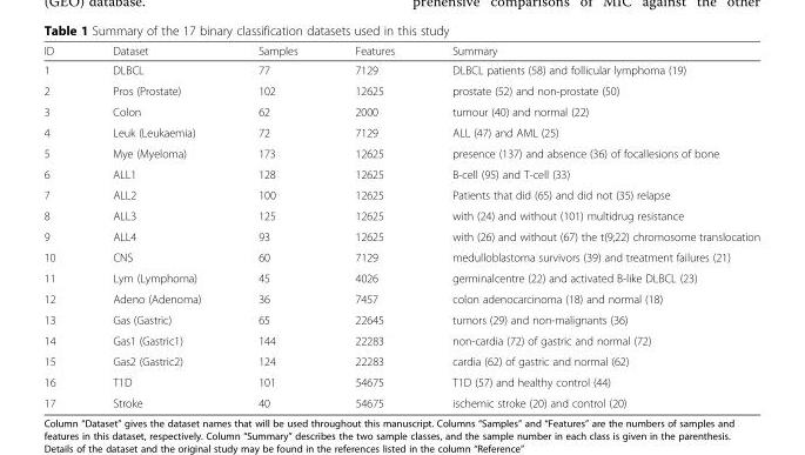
<table><thead><tr><td>ID</td><td>Dataset</td><td>Samples</td><td>Features</td><td>Summary</td></tr></thead><tbody><tr><td>1</td><td>DLBCL</td><td>77</td><td>7129</td><td>DLBCL patients (58) and follicular lymphoma (19)</td></tr><tr><td>2</td><td>Pros (Prostate)</td><td>102</td><td>12625</td><td>prostate (52) and non-prostate (50)</td></tr><tr><td>3</td><td>Colon</td><td>62</td><td>2000</td><td>tumour (40) and normal (22)</td></tr><tr><td>4</td><td>Leuk (Leukaemia)</td><td>72</td><td>7129</td><td>ALL (47) and AML (25)</td></tr><tr><td>5</td><td>Mye (Myeloma)</td><td>173</td><td>12625</td><td>presence (137) and absence (36) of focallesions of bone</td></tr><tr><td>6</td><td>ALL1</td><td>128</td><td>12625</td><td>B-cell (95) and T-cell (33)</td></tr><tr><td>7</td><td>ALL2</td><td>100</td><td>12625</td><td>Patients that did (65) and did not (35) relapse</td></tr><tr><td>8</td><td>ALL3</td><td>125</td><td>12625</td><td>with (24) and without (101) multidrug resistance</td></tr><tr><td>9</td><td>ALL4</td><td>93</td><td>12625</td><td>with (26) and without (67) the t(9;22) chromosome translocation</td></tr><tr><td>10</td><td>CNS</td><td>60</td><td>7129</td><td>medulloblastoma survivors (39) and treatment failures (21)</td></tr><tr><td>11</td><td>Lym (Lymphoma)</td><td>45</td><td>4026</td><td>germinalcentre (22) and activated B-like DLBCL (23)</td></tr><tr><td>12</td><td>Adeno (Adenoma)</td><td>36</td><td>7457</td><td>colon adenocarcinoma (18) and normal (18)</td></tr><tr><td>13</td><td>Gas (Gastric)</td><td>65</td><td>22645</td><td>tumors (29) and non-malignants (36)</td></tr><tr><td>14</td><td>Gas1 (Gastric1)</td><td>144</td><td>22283</td><td>non-cardia (72) of gastric and normal (72)</td></tr><tr><td>15</td><td>Gas2 (Gastric2)</td><td>124</td><td>22283</td><td>cardia (62) of gastric and normal (62)</td></tr><tr><td>16</td><td>T1D</td><td>101</td><td>54675</td><td>T1D (57) and healthy control (44)</td></tr><tr><td>17</td><td>Stroke</td><td>40</td><td>54675</td><td>ischemic stroke (20) and control (20)</td></tr></tbody></table>